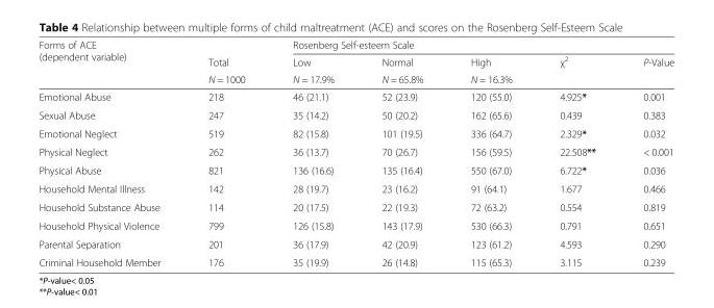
<table><thead><tr><td rowspan="3">Forms of ACE (dependent variable)</td><td rowspan="3">Total N = 1000</td><td colspan="5">Rosenberg Self-esteem Scale</td></tr><tr><td rowspan="2">Low N = 17.9%</td><td rowspan="2">Normal N = 65.8%</td><td rowspan="2">High N = 16.3%</td><td rowspan="2">χ<sup>2</sup></td><td rowspan="2">P-Value</td></tr><tr></tr></thead><tbody><tr><td>Emotional Abuse</td><td>218</td><td>46 (21.1)</td><td>52 (23.9)</td><td>120 (55.0)</td><td>4.925*</td><td>0.001</td></tr><tr><td>Sexual Abuse</td><td>247</td><td>35 (14.2)</td><td>50 (20.2)</td><td>162 (65.6)</td><td>0.439</td><td>0.383</td></tr><tr><td>Emotional Neglect</td><td>519</td><td>82 (15.8)</td><td>101 (19.5)</td><td>336 (64.7)</td><td>2.329*</td><td>0.032</td></tr><tr><td>Physical Neglect</td><td>262</td><td>36 (13.7)</td><td>70 (26.7)</td><td>156 (59.5)</td><td>22.508**</td><td>&lt; 0.001</td></tr><tr><td>Physical Abuse</td><td>821</td><td>136 (16.6)</td><td>135 (16.4)</td><td>550 (67.0)</td><td>6.722*</td><td>0.036</td></tr><tr><td>Household Mental Illness</td><td>142</td><td>28 (19.7)</td><td>23 (16.2)</td><td>91 (64.1)</td><td>1.677</td><td>0.466</td></tr><tr><td>Household Substance Abuse</td><td>114</td><td>20 (17.5)</td><td>22 (19.3)</td><td>72 (63.2)</td><td>0.554</td><td>0.819</td></tr><tr><td>Household Physical Violence</td><td>799</td><td>126 (15.8)</td><td>143 (17.9)</td><td>530 (66.3)</td><td>0.791</td><td>0.651</td></tr><tr><td>Parental Separation</td><td>201</td><td>36 (17.9)</td><td>42 (20.9)</td><td>123 (61.2)</td><td>4.593</td><td>0.290</td></tr><tr><td>Criminal Household Member</td><td>176</td><td>35 (19.9)</td><td>26 (14.8)</td><td>115 (65.3)</td><td>3.115</td><td>0.239</td></tr></tbody></table>